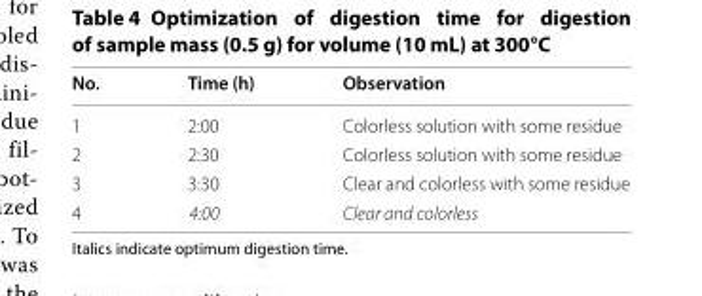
<table><thead><tr><td>No.</td><td>Time (h)</td><td>Observation</td></tr></thead><tbody><tr><td>1</td><td>2:00</td><td>Colorless solution with some residue</td></tr><tr><td>2</td><td>2:30</td><td>Colorless solution with some residue</td></tr><tr><td>3</td><td>3:30</td><td>Clear and colorless with some residue</td></tr><tr><td>4</td><td>4:00</td><td>Clear and colorless</td></tr></tbody></table>